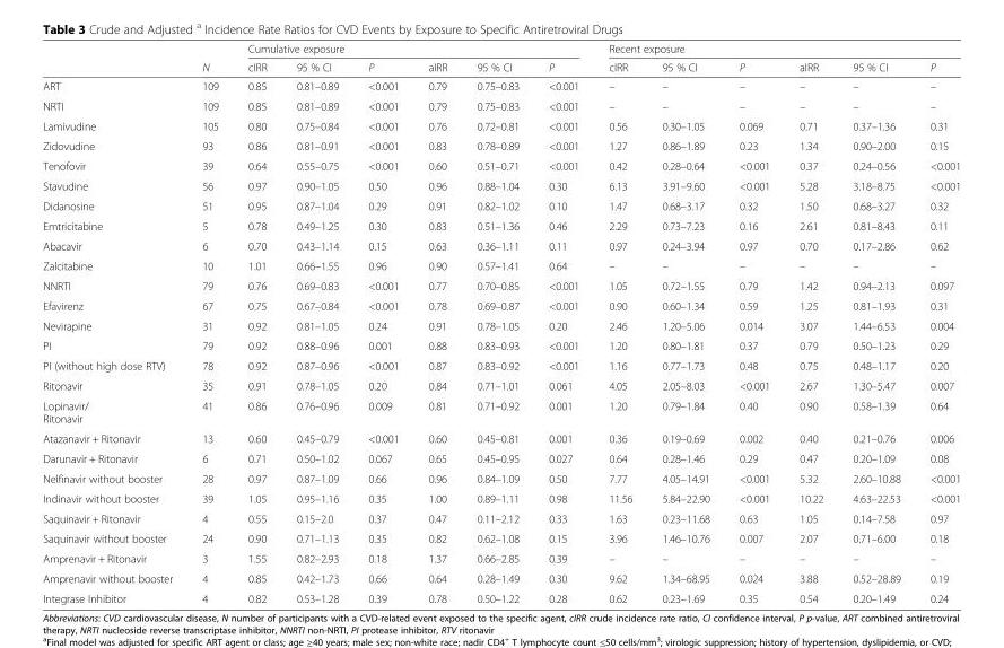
<table><thead><tr><td rowspan="2"></td><td rowspan="2">N</td><td colspan="6">Cumulative exposure</td><td colspan="6">Recent exposure</td></tr><tr><td>cIRR</td><td>95 % CI</td><td>P</td><td>aIRR</td><td>95 % CI</td><td>P</td><td>cIRR</td><td>95 % CI</td><td>P</td><td>aIRR</td><td>95 % CI</td><td>P</td></tr></thead><tbody><tr><td>ART</td><td>109</td><td>0.85</td><td>0.81–0.89</td><td>&lt;0.001</td><td>0.79</td><td>0.75–0.83</td><td>&lt;0.001</td><td>–</td><td>–</td><td>–</td><td>–</td><td>–</td><td>–</td></tr><tr><td>NRTI</td><td>109</td><td>0.85</td><td>0.81–0.89</td><td>&lt;0.001</td><td>0.79</td><td>0.75–0.83</td><td>&lt;0.001</td><td>–</td><td>–</td><td>–</td><td>–</td><td>–</td><td>–</td></tr><tr><td>Lamivudine</td><td>105</td><td>0.80</td><td>0.75–0.84</td><td>&lt;0.001</td><td>0.76</td><td>0.72–0.81</td><td>&lt;0.001</td><td>0.56</td><td>0.30–1.05</td><td>0.069</td><td>0.71</td><td>0.37–1.36</td><td>0.31</td></tr><tr><td>Zidovudine</td><td>93</td><td>0.86</td><td>0.81–0.91</td><td>&lt;0.001</td><td>0.83</td><td>0.78–0.89</td><td>&lt;0.001</td><td>1.27</td><td>0.86–1.89</td><td>0.23</td><td>1.34</td><td>0.90–2.00</td><td>0.15</td></tr><tr><td>Tenofovir</td><td>39</td><td>0.64</td><td>0.55–0.75</td><td>&lt;0.001</td><td>0.60</td><td>0.51–0.71</td><td>&lt;0.001</td><td>0.42</td><td>0.28–0.64</td><td>&lt;0.001</td><td>0.37</td><td>0.24–0.56</td><td>&lt;0.001</td></tr><tr><td>Stavudine</td><td>56</td><td>0.97</td><td>0.90–1.05</td><td>0.50</td><td>0.96</td><td>0.88–1.04</td><td>0.30</td><td>6.13</td><td>3.91–9.60</td><td>&lt;0.001</td><td>5.28</td><td>3.18–8.75</td><td>&lt;0.001</td></tr><tr><td>Didanosine</td><td>51</td><td>0.95</td><td>0.87–1.04</td><td>0.29</td><td>0.91</td><td>0.82–1.02</td><td>0.10</td><td>1.47</td><td>0.68–3.17</td><td>0.32</td><td>1.50</td><td>0.68–3.27</td><td>0.32</td></tr><tr><td>Emtricitabine</td><td>5</td><td>0.78</td><td>0.49–1.25</td><td>0.30</td><td>0.83</td><td>0.51–1.36</td><td>0.46</td><td>2.29</td><td>0.73–7.23</td><td>0.16</td><td>2.61</td><td>0.81–8.43</td><td>0.11</td></tr><tr><td>Abacavir</td><td>6</td><td>0.70</td><td>0.43–1.14</td><td>0.15</td><td>0.63</td><td>0.36–1.11</td><td>0.11</td><td>0.97</td><td>0.24–3.94</td><td>0.97</td><td>0.70</td><td>0.17–2.86</td><td>0.62</td></tr><tr><td>Zalcitabine</td><td>10</td><td>1.01</td><td>0.66–1.55</td><td>0.96</td><td>0.90</td><td>0.57–1.41</td><td>0.64</td><td>–</td><td>–</td><td>–</td><td>–</td><td>–</td><td>–</td></tr><tr><td>NNRTI</td><td>79</td><td>0.76</td><td>0.69–0.83</td><td>&lt;0.001</td><td>0.77</td><td>0.70–0.85</td><td>&lt;0.001</td><td>1.05</td><td>0.72–1.55</td><td>0.79</td><td>1.42</td><td>0.94–2.13</td><td>0.097</td></tr><tr><td>Efavirenz</td><td>67</td><td>0.75</td><td>0.67–0.84</td><td>&lt;0.001</td><td>0.78</td><td>0.69–0.87</td><td>&lt;0.001</td><td>0.90</td><td>0.60–1.34</td><td>0.59</td><td>1.25</td><td>0.81–1.93</td><td>0.31</td></tr><tr><td>Nevirapine</td><td>31</td><td>0.92</td><td>0.81–1.05</td><td>0.24</td><td>0.91</td><td>0.78–1.05</td><td>0.20</td><td>2.46</td><td>1.20–5.06</td><td>0.014</td><td>3.07</td><td>1.44–6.53</td><td>0.004</td></tr><tr><td>PI</td><td>79</td><td>0.92</td><td>0.88–0.96</td><td>0.001</td><td>0.88</td><td>0.83–0.93</td><td>&lt;0.001</td><td>1.20</td><td>0.80–1.81</td><td>0.37</td><td>0.79</td><td>0.50–1.23</td><td>0.29</td></tr><tr><td>PI (without high dose RTV)</td><td>78</td><td>0.92</td><td>0.87–0.96</td><td>&lt;0.001</td><td>0.87</td><td>0.83–0.92</td><td>&lt;0.001</td><td>1.16</td><td>0.77–1.73</td><td>0.48</td><td>0.75</td><td>0.48–1.17</td><td>0.20</td></tr><tr><td>Ritonavir</td><td>35</td><td>0.91</td><td>0.78–1.05</td><td>0.20</td><td>0.84</td><td>0.71–1.01</td><td>0.061</td><td>4.05</td><td>2.05–8.03</td><td>&lt;0.001</td><td>2.67</td><td>1.30–5.47</td><td>0.007</td></tr><tr><td>Lopinavir/ Ritonavir</td><td>41</td><td>0.86</td><td>0.76–0.96</td><td>0.009</td><td>0.81</td><td>0.71–0.92</td><td>0.001</td><td>1.20</td><td>0.79–1.84</td><td>0.40</td><td>0.90</td><td>0.58–1.39</td><td>0.64</td></tr><tr><td>Atazanavir + Ritonavir</td><td>13</td><td>0.60</td><td>0.45–0.79</td><td>&lt;0.001</td><td>0.60</td><td>0.45–0.81</td><td>0.001</td><td>0.36</td><td>0.19–0.69</td><td>0.002</td><td>0.40</td><td>0.21–0.76</td><td>0.006</td></tr><tr><td>Darunavir + Ritonavir</td><td>6</td><td>0.71</td><td>0.50–1.02</td><td>0.067</td><td>0.65</td><td>0.45–0.95</td><td>0.027</td><td>0.64</td><td>0.28–1.46</td><td>0.29</td><td>0.47</td><td>0.20–1.09</td><td>0.08</td></tr><tr><td>Nelfinavir without booster</td><td>28</td><td>0.97</td><td>0.87–1.09</td><td>0.66</td><td>0.96</td><td>0.84–1.09</td><td>0.50</td><td>7.77</td><td>4.05–14.91</td><td>&lt;0.001</td><td>5.32</td><td>2.60–10.88</td><td>&lt;0.001</td></tr><tr><td>Indinavir without booster</td><td>39</td><td>1.05</td><td>0.95–1.16</td><td>0.35</td><td>1.00</td><td>0.89–1.11</td><td>0.98</td><td>11.56</td><td>5.84–22.90</td><td>&lt;0.001</td><td>10.22</td><td>4.63–22.53</td><td>&lt;0.001</td></tr><tr><td>Saquinavir + Ritonavir</td><td>4</td><td>0.55</td><td>0.15–2.0</td><td>0.37</td><td>0.47</td><td>0.11–2.12</td><td>0.33</td><td>1.63</td><td>0.23–11.68</td><td>0.63</td><td>1.05</td><td>0.14–7.58</td><td>0.97</td></tr><tr><td>Saquinavir without booster</td><td>24</td><td>0.90</td><td>0.71–1.13</td><td>0.35</td><td>0.82</td><td>0.62–1.08</td><td>0.15</td><td>3.96</td><td>1.46–10.76</td><td>0.007</td><td>2.07</td><td>0.71–6.00</td><td>0.18</td></tr><tr><td>Amprenavir + Ritonavir</td><td>3</td><td>1.55</td><td>0.82–2.93</td><td>0.18</td><td>1.37</td><td>0.66–2.85</td><td>0.39</td><td>–</td><td>–</td><td>–</td><td>–</td><td>–</td><td>–</td></tr><tr><td>Amprenavir without booster</td><td>4</td><td>0.85</td><td>0.42–1.73</td><td>0.66</td><td>0.64</td><td>0.28–1.49</td><td>0.30</td><td>9.62</td><td>1.34–68.95</td><td>0.024</td><td>3.88</td><td>0.52–28.89</td><td>0.19</td></tr><tr><td>Integrase Inhibitor</td><td>4</td><td>0.82</td><td>0.53–1.28</td><td>0.39</td><td>0.78</td><td>0.50–1.22</td><td>0.28</td><td>0.62</td><td>0.23–1.69</td><td>0.35</td><td>0.54</td><td>0.20–1.49</td><td>0.24</td></tr></tbody></table>